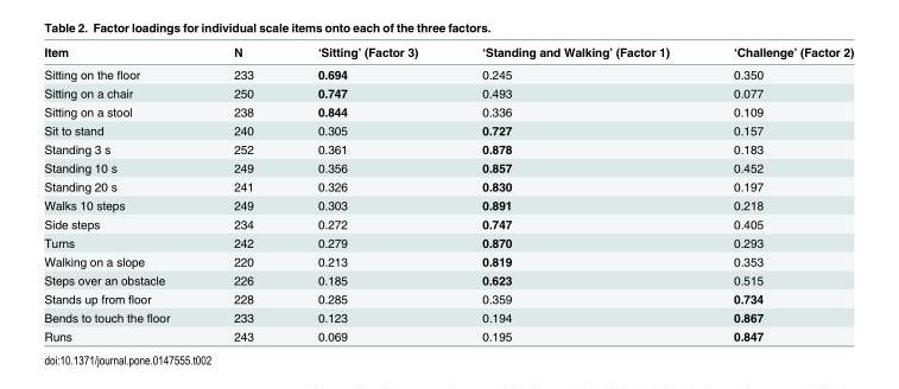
<table><thead><tr><td>Item</td><td>N</td><td>‘Sitting’ (Factor 3)</td><td>‘Standing and Walking’ (Factor 1)</td><td>‘Challenge’ (Factor 2)</td></tr></thead><tbody><tr><td>Sitting on the floor</td><td>233</td><td>0.694</td><td>0.245</td><td>0.350</td></tr><tr><td>Sitting on a chair</td><td>250</td><td>0.747</td><td>0.493</td><td>0.077</td></tr><tr><td>Sitting on a stool</td><td>238</td><td>0.844</td><td>0.336</td><td>0.109</td></tr><tr><td>Sit to stand</td><td>240</td><td>0.305</td><td>0.727</td><td>0.157</td></tr><tr><td>Standing 3 s</td><td>252</td><td>0.361</td><td>0.878</td><td>0.183</td></tr><tr><td>Standing 10 s</td><td>249</td><td>0.356</td><td>0.857</td><td>0.452</td></tr><tr><td>Standing 20 s</td><td>241</td><td>0.326</td><td>0.830</td><td>0.197</td></tr><tr><td>Walks 10 steps</td><td>249</td><td>0.303</td><td>0.891</td><td>0.218</td></tr><tr><td>Side steps</td><td>234</td><td>0.272</td><td>0.747</td><td>0.405</td></tr><tr><td>Turns</td><td>242</td><td>0.279</td><td>0.870</td><td>0.293</td></tr><tr><td>Walking on a slope</td><td>220</td><td>0.213</td><td>0.819</td><td>0.353</td></tr><tr><td>Steps over an obstacle</td><td>226</td><td>0.185</td><td>0.623</td><td>0.515</td></tr><tr><td>Stands up from floor</td><td>228</td><td>0.285</td><td>0.359</td><td>0.734</td></tr><tr><td>Bends to touch the floor</td><td>233</td><td>0.123</td><td>0.194</td><td>0.867</td></tr><tr><td>Runs</td><td>243</td><td>0.069</td><td>0.195</td><td>0.847</td></tr></tbody></table>